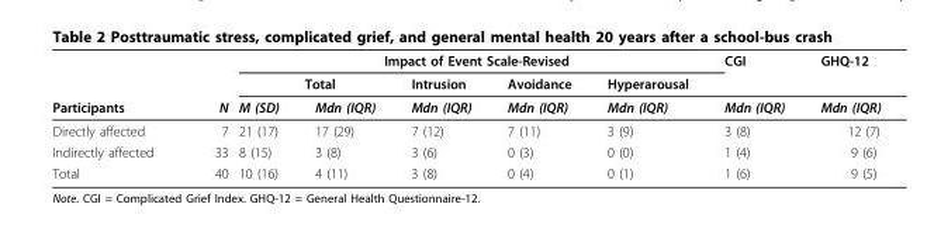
<table><thead><tr><td rowspan="3">Participants</td><td rowspan="3">N</td><td colspan="5">Impact of Event Scale-Revised</td><td rowspan="3">CGI Mdn (IQR)</td><td rowspan="3">GHQ-12 Mdn (IQR)</td></tr><tr><td colspan="2">Total</td><td rowspan="2">Intrusion Mdn (IQR)</td><td rowspan="2">Avoidance Mdn (IQR)</td><td rowspan="2">Hyperarousal Mdn (IQR)</td></tr><tr><td>M (SD)</td><td>Mdn (IQR)</td></tr></thead><tbody><tr><td>Directly affected</td><td>7</td><td>21 (17)</td><td>17 (29)</td><td>7 (12)</td><td>7 (11)</td><td>3 (9)</td><td>3 (8)</td><td>12 (7)</td></tr><tr><td>Indirectly affected</td><td>33</td><td>8 (15)</td><td>3 (8)</td><td>3 (6)</td><td>0 (3)</td><td>0 (0)</td><td>1 (4)</td><td>9 (6)</td></tr><tr><td>Total</td><td>40</td><td>10 (16)</td><td>4 (11)</td><td>3 (8)</td><td>0 (4)</td><td>0 (1)</td><td>1 (6)</td><td>9 (5)</td></tr></tbody></table>